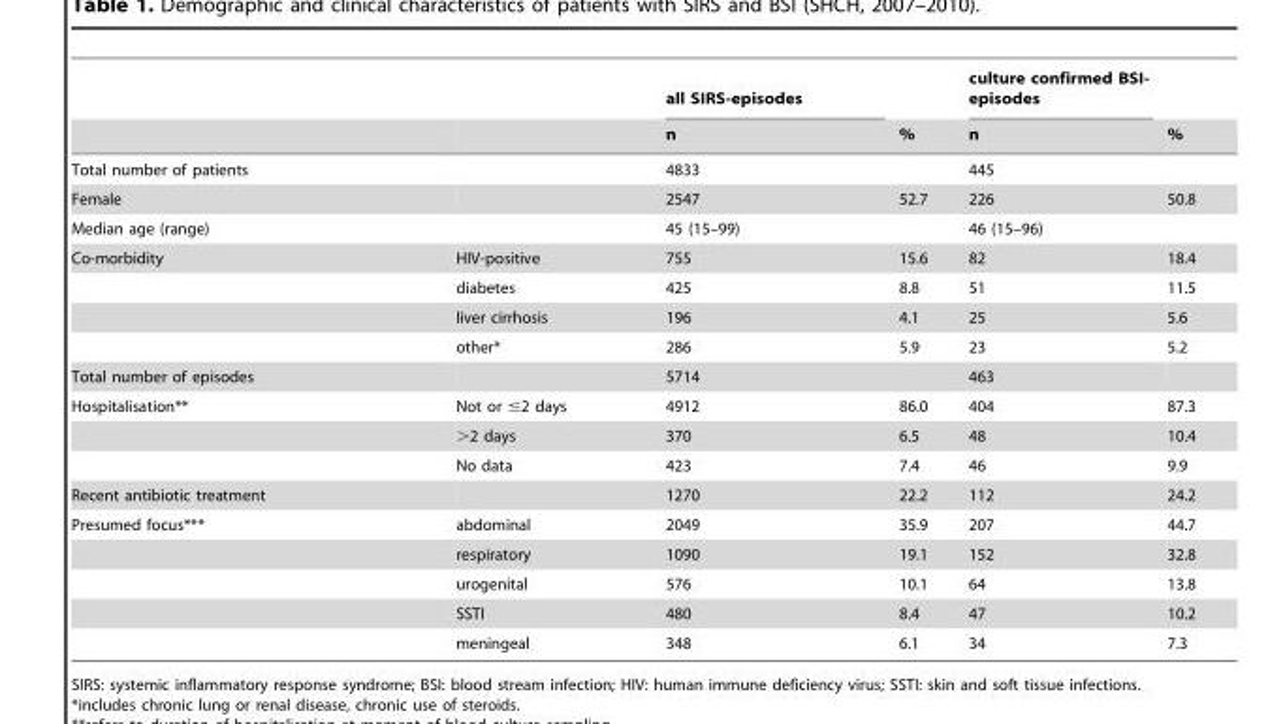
<table><thead><tr><td rowspan="2"></td><td rowspan="2"></td><td rowspan="2">all SIRS-episodes n</td><td rowspan="2">%</td><td rowspan="2">culture confirmed BSI- episodes n</td><td rowspan="2">%</td></tr><tr></tr></thead><tbody><tr><td>Total number of patients</td><td></td><td>4833</td><td></td><td>445</td><td></td></tr><tr><td>Female</td><td></td><td>2547</td><td>52.7</td><td>226</td><td>50.8</td></tr><tr><td>Median age (range)</td><td></td><td>45 (15–99)</td><td></td><td>46 (15–96)</td><td></td></tr><tr><td rowspan="4">Co-morbidity</td><td>HIV-positive</td><td>755</td><td>15.6</td><td>82</td><td>18.4</td></tr><tr><td>diabetes</td><td>425</td><td>8.8</td><td>51</td><td>11.5</td></tr><tr><td>liver cirrhosis</td><td>196</td><td>4.1</td><td>25</td><td>5.6</td></tr><tr><td>other*</td><td>286</td><td>5.9</td><td>23</td><td>5.2</td></tr><tr><td>Total number of episodes</td><td></td><td>5714</td><td></td><td>463</td><td></td></tr><tr><td rowspan="3">Hospitalisation**</td><td>Not or ≤2 days</td><td>4912</td><td>86.0</td><td>404</td><td>87.3</td></tr><tr><td>&gt;2 days</td><td>370</td><td>6.5</td><td>48</td><td>10.4</td></tr><tr><td>No data</td><td>423</td><td>7.4</td><td>46</td><td>9.9</td></tr><tr><td>Recent antibiotic treatment</td><td></td><td>1270</td><td>22.2</td><td>112</td><td>24.2</td></tr><tr><td rowspan="5">Presumed focus***</td><td>abdominal</td><td>2049</td><td>35.9</td><td>207</td><td>44.7</td></tr><tr><td>respiratory</td><td>1090</td><td>19.1</td><td>152</td><td>32.8</td></tr><tr><td>urogenital</td><td>576</td><td>10.1</td><td>64</td><td>13.8</td></tr><tr><td>SSTI</td><td>480</td><td>8.4</td><td>47</td><td>10.2</td></tr><tr><td>meningeal</td><td>348</td><td>6.1</td><td>34</td><td>7.3</td></tr></tbody></table>